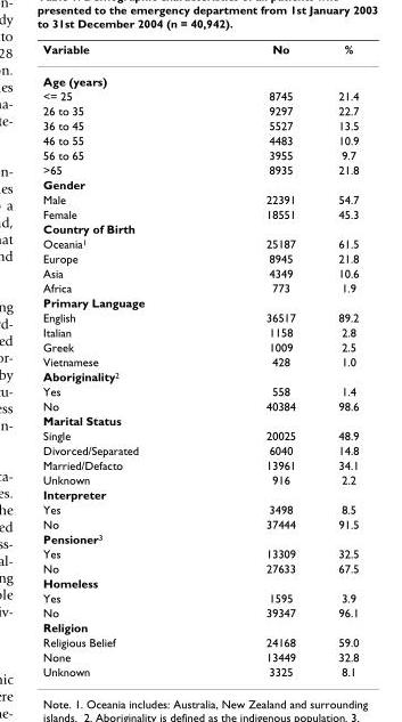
<table><thead><tr><td>Variable</td><td>No</td><td>%</td></tr></thead><tbody><tr><td colspan="3">Age (years)</td></tr><tr><td>&lt;= 25</td><td>8745</td><td>21.4</td></tr><tr><td>26 to 35</td><td>9297</td><td>22.7</td></tr><tr><td>36 to 45</td><td>5527</td><td>13.5</td></tr><tr><td>46 to 55</td><td>4483</td><td>10.9</td></tr><tr><td>56 to 65</td><td>3955</td><td>9.7</td></tr><tr><td>&gt;65</td><td>8935</td><td>21.8</td></tr><tr><td colspan="3">Gender</td></tr><tr><td>Male</td><td>22391</td><td>54.7</td></tr><tr><td>Female</td><td>18551</td><td>45.3</td></tr><tr><td colspan="3">Country of Birth</td></tr><tr><td>Oceania<sup>1</sup></td><td>25187</td><td>61.5</td></tr><tr><td>Europe</td><td>8945</td><td>21.8</td></tr><tr><td>Asia</td><td>4349</td><td>10.6</td></tr><tr><td>Africa</td><td>773</td><td>1.9</td></tr><tr><td colspan="3">Primary Language</td></tr><tr><td>English</td><td>36517</td><td>89.2</td></tr><tr><td>Italian</td><td>1158</td><td>2.8</td></tr><tr><td>Greek</td><td>1009</td><td>2.5</td></tr><tr><td>Vietnamese</td><td>428</td><td>1.0</td></tr><tr><td colspan="3">Aboriginality<sup>2</sup></td></tr><tr><td>Yes</td><td>558</td><td>1.4</td></tr><tr><td>No</td><td>40384</td><td>98.6</td></tr><tr><td colspan="3">Marital Status</td></tr><tr><td>Single</td><td>20025</td><td>48.9</td></tr><tr><td>Divorced/Separated</td><td>6040</td><td>14.8</td></tr><tr><td>Married/Defacto</td><td>13961</td><td>34.1</td></tr><tr><td>Unknown</td><td>916</td><td>2.2</td></tr><tr><td colspan="3">Interpreter</td></tr><tr><td>Yes</td><td>3498</td><td>8.5</td></tr><tr><td>No</td><td>37444</td><td>91.5</td></tr><tr><td colspan="3">Pensioner<sup>3</sup></td></tr><tr><td>Yes</td><td>13309</td><td>32.5</td></tr><tr><td>No</td><td>27633</td><td>67.5</td></tr><tr><td colspan="3">Homeless</td></tr><tr><td>Yes</td><td>1595</td><td>3.9</td></tr><tr><td>No</td><td>39347</td><td>96.1</td></tr><tr><td colspan="3">Religion</td></tr><tr><td>Religious Belief</td><td>24168</td><td>59.0</td></tr><tr><td>None</td><td>13449</td><td>32.8</td></tr><tr><td>Unknown</td><td>3325</td><td>8.1</td></tr></tbody></table>